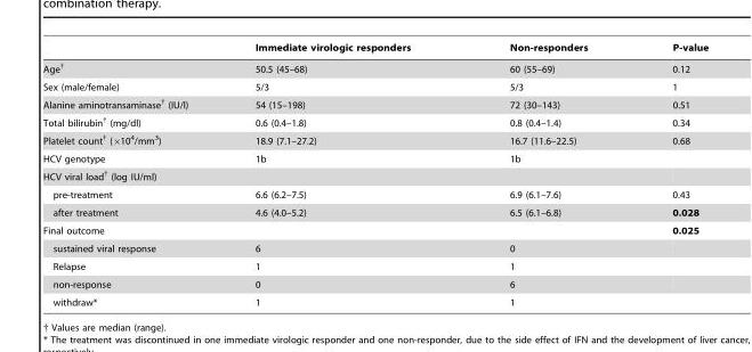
<table><thead><tr><td></td><td>Immediate virologic responders</td><td>Non-responders</td><td>P-value</td></tr></thead><tbody><tr><td>Age†</td><td>50.5 (45–68)</td><td>60 (55–69)</td><td>0.12</td></tr><tr><td>Sex (male/female)</td><td>5/3</td><td>5/3</td><td>1</td></tr><tr><td>Alanine aminotransaminase† (IU/l)</td><td>54 (15–198)</td><td>72 (30–143)</td><td>0.51</td></tr><tr><td>Total bilirubin† (mg/dl)</td><td>0.6 (0.4–1.8)</td><td>0.8 (0.4–1.4)</td><td>0.34</td></tr><tr><td>Platelet count† (×10<sup>4</sup>/mm<sup>3</sup>)</td><td>18.9 (7.1–27.2)</td><td>16.7 (11.6–22.5)</td><td>0.68</td></tr><tr><td>HCV genotype</td><td>1b</td><td>1b</td><td></td></tr><tr><td colspan="4">HCV viral load† (log IU/ml)</td></tr><tr><td>pre-treatment</td><td>6.6 (6.2–7.5)</td><td>6.9 (6.1–7.6)</td><td>0.43</td></tr><tr><td>after treatment</td><td>4.6 (4.0–5.2)</td><td>6.5 (6.1–6.8)</td><td>0.028</td></tr><tr><td>Final outcome</td><td></td><td></td><td>0.025</td></tr><tr><td>sustained viral response</td><td>6</td><td>0</td><td></td></tr><tr><td>Relapse</td><td>1</td><td>1</td><td></td></tr><tr><td>non-response</td><td>0</td><td>6</td><td></td></tr><tr><td>withdraw*</td><td>1</td><td>1</td><td></td></tr></tbody></table>